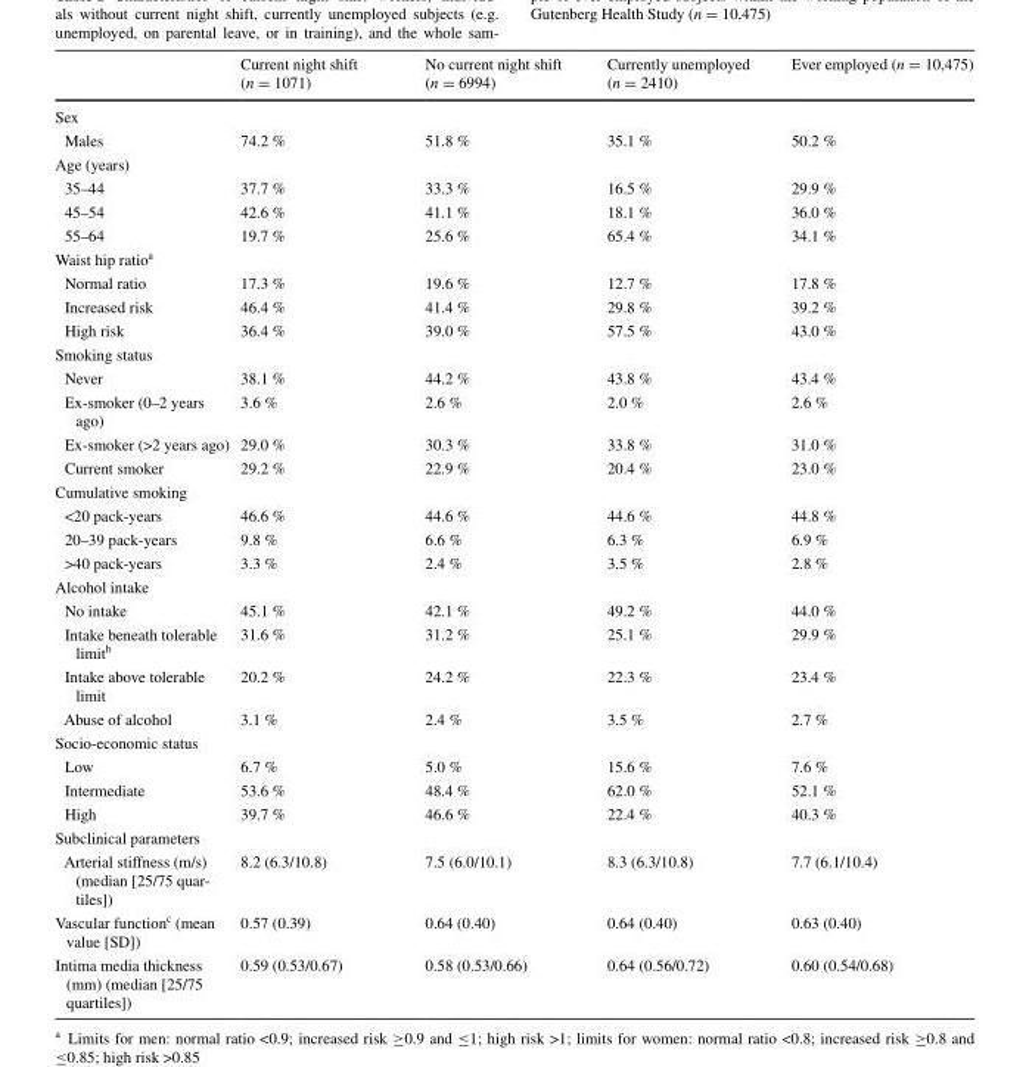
<table><thead><tr><td></td><td>Current night shift (n = 1071)</td><td>No current night shift (n = 6994)</td><td>Currently unemployed (n = 2410)</td><td>Ever employed (n = 10,475)</td></tr></thead><tbody><tr><td colspan="5">Sex</td></tr><tr><td>Males</td><td>74.2 %</td><td>51.8 %</td><td>35.1 %</td><td>50.2 %</td></tr><tr><td colspan="5">Age (years)</td></tr><tr><td>35–44</td><td>37.7 %</td><td>33.3 %</td><td>16.5 %</td><td>29.9 %</td></tr><tr><td>45–54</td><td>42.6 %</td><td>41.1 %</td><td>18.1 %</td><td>36.0 %</td></tr><tr><td>55–64</td><td>19.7 %</td><td>25.6 %</td><td>65.4 %</td><td>34.1 %</td></tr><tr><td colspan="5">Waist hip ratio<sup>a</sup></td></tr><tr><td>Normal ratio</td><td>17.3 %</td><td>19.6 %</td><td>12.7 %</td><td>17.8 %</td></tr><tr><td>Increased risk</td><td>46.4 %</td><td>41.4 %</td><td>29.8 %</td><td>39.2 %</td></tr><tr><td>High risk</td><td>36.4 %</td><td>39.0 %</td><td>57.5 %</td><td>43.0 %</td></tr><tr><td colspan="5">Smoking status</td></tr><tr><td>Never</td><td>38.1 %</td><td>44.2 %</td><td>43.8 %</td><td>43.4 %</td></tr><tr><td>Ex-smoker (0–2 years ago)</td><td>3.6 %</td><td>2.6 %</td><td>2.0 %</td><td>2.6 %</td></tr><tr><td>Ex-smoker (&gt;2 years ago)</td><td>29.0 %</td><td>30.3 %</td><td>33.8 %</td><td>31.0 %</td></tr><tr><td>Current smoker</td><td>29.2 %</td><td>22.9 %</td><td>20.4 %</td><td>23.0 %</td></tr><tr><td colspan="5">Cumulative smoking</td></tr><tr><td>&lt;20 pack-years</td><td>46.6 %</td><td>44.6 %</td><td>44.6 %</td><td>44.8 %</td></tr><tr><td>20–39 pack-years</td><td>9.8 %</td><td>6.6 %</td><td>6.3 %</td><td>6.9 %</td></tr><tr><td>&gt;40 pack-years</td><td>3.3 %</td><td>2.4 %</td><td>3.5 %</td><td>2.8 %</td></tr><tr><td colspan="5">Alcohol intake</td></tr><tr><td>No intake</td><td>45.1 %</td><td>42.1 %</td><td>49.2 %</td><td>44.0 %</td></tr><tr><td>Intake beneath tolerable limit<sup>b</sup></td><td>31.6 %</td><td>31.2 %</td><td>25.1 %</td><td>29.9 %</td></tr><tr><td>Intake above tolerable limit</td><td>20.2 %</td><td>24.2 %</td><td>22.3 %</td><td>23.4 %</td></tr><tr><td>Abuse of alcohol</td><td>3.1 %</td><td>2.4 %</td><td>3.5 %</td><td>2.7 %</td></tr><tr><td colspan="5">Socio-economic status</td></tr><tr><td>Low</td><td>6.7 %</td><td>5.0 %</td><td>15.6 %</td><td>7.6 %</td></tr><tr><td>Intermediate</td><td>53.6 %</td><td>48.4 %</td><td>62.0 %</td><td>52.1 %</td></tr><tr><td>High</td><td>39.7 %</td><td>46.6 %</td><td>22.4 %</td><td>40.3 %</td></tr><tr><td colspan="5">Subclinical parameters</td></tr><tr><td>Arterial stiffness (m/s) (median [25/75 quar- tiles])</td><td>8.2 (6.3/10.8)</td><td>7.5 (6.0/10.1)</td><td>8.3 (6.3/10.8)</td><td>7.7 (6.1/10.4)</td></tr><tr><td>Vascular function<sup>c</sup> (mean value [SD])</td><td>0.57 (0.39)</td><td>0.64 (0.40)</td><td>0.64 (0.40)</td><td>0.63 (0.40)</td></tr><tr><td>Intima media thickness (mm) (median [25/75 quartiles])</td><td>0.59 (0.53/0.67)</td><td>0.58 (0.53/0.66)</td><td>0.64 (0.56/0.72)</td><td>0.60 (0.54/0.68)</td></tr></tbody></table>